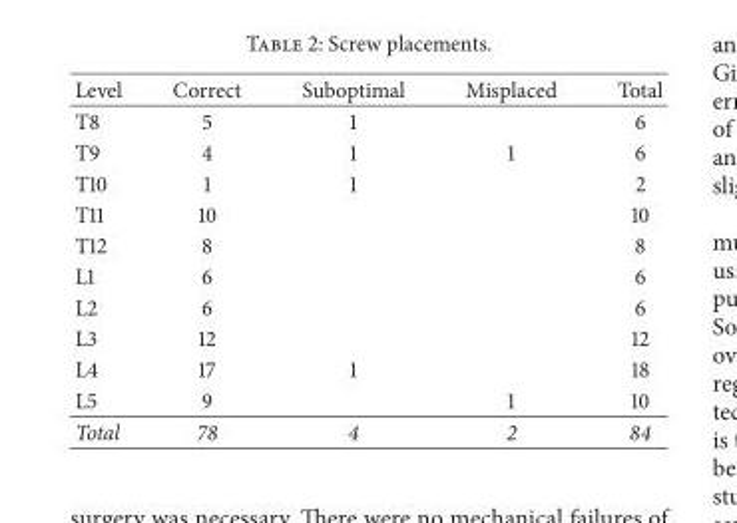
<table><thead><tr><td>Level</td><td>Correct</td><td>Suboptimal</td><td>Misplaced</td><td>Total</td></tr></thead><tbody><tr><td>T8</td><td>5</td><td>1</td><td></td><td>6</td></tr><tr><td>T9</td><td>4</td><td>1</td><td>1</td><td>6</td></tr><tr><td>T10</td><td>1</td><td>1</td><td></td><td>2</td></tr><tr><td>T11</td><td>10</td><td></td><td></td><td>10</td></tr><tr><td>T12</td><td>8</td><td></td><td></td><td>8</td></tr><tr><td>L1</td><td>6</td><td></td><td></td><td>6</td></tr><tr><td>L2</td><td>6</td><td></td><td></td><td>6</td></tr><tr><td>L3</td><td>12</td><td></td><td></td><td>12</td></tr><tr><td>L4</td><td>17</td><td>1</td><td></td><td>18</td></tr><tr><td>L5</td><td>9</td><td></td><td>1</td><td>10</td></tr><tr><td>Total</td><td>78</td><td>4</td><td>2</td><td>84</td></tr></tbody></table>